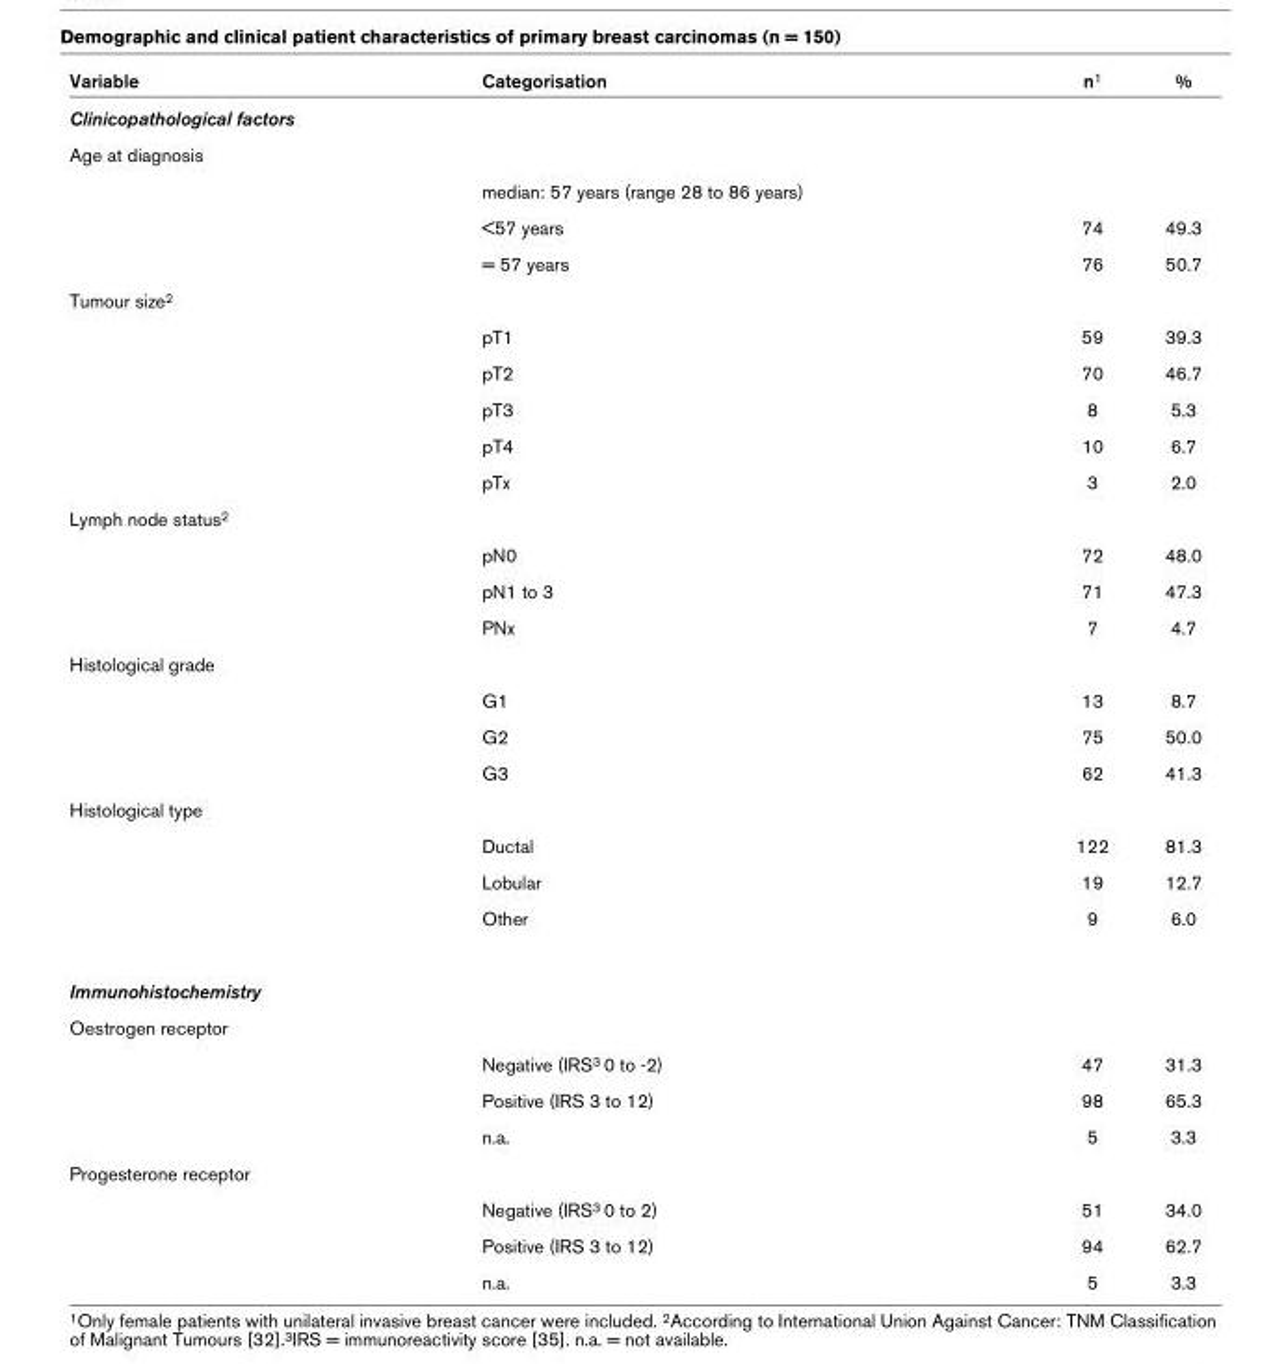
<table><thead><tr><td>Variable</td><td>Categorisation</td><td>n<sup>1</sup></td><td>%</td></tr></thead><tbody><tr><td colspan="4">Clinicopathological factors</td></tr><tr><td colspan="4">Age at diagnosis</td></tr><tr><td></td><td>median: 57 years (range 28 to 86 years)</td><td></td><td></td></tr><tr><td></td><td>&lt;57 years</td><td>74</td><td>49.3</td></tr><tr><td></td><td>= 57 years</td><td>76</td><td>50.7</td></tr><tr><td colspan="4">Tumour size<sup>2</sup></td></tr><tr><td></td><td>pT1</td><td>59</td><td>39.3</td></tr><tr><td></td><td>pT2</td><td>70</td><td>46.7</td></tr><tr><td></td><td>pT3</td><td>8</td><td>5.3</td></tr><tr><td></td><td>pT4</td><td>10</td><td>6.7</td></tr><tr><td></td><td>pTx</td><td>3</td><td>2.0</td></tr><tr><td colspan="4">Lymph node status<sup>2</sup></td></tr><tr><td></td><td>pN0</td><td>72</td><td>48.0</td></tr><tr><td></td><td>pN1 to 3</td><td>71</td><td>47.3</td></tr><tr><td></td><td>PNx</td><td>7</td><td>4.7</td></tr><tr><td colspan="4">Histological grade</td></tr><tr><td></td><td>G1</td><td>13</td><td>8.7</td></tr><tr><td></td><td>G2</td><td>75</td><td>50.0</td></tr><tr><td></td><td>G3</td><td>62</td><td>41.3</td></tr><tr><td colspan="4">Histological type</td></tr><tr><td></td><td>Ductal</td><td>122</td><td>81.3</td></tr><tr><td></td><td>Lobular</td><td>19</td><td>12.7</td></tr><tr><td></td><td>Other</td><td>9</td><td>6.0</td></tr><tr><td colspan="4">Immunohistochemistry</td></tr><tr><td colspan="4">Oestrogen receptor</td></tr><tr><td></td><td>Negative (IRS<sup>3</sup> 0 to -2)</td><td>47</td><td>31.3</td></tr><tr><td></td><td>Positive (IRS 3 to 12)</td><td>98</td><td>65.3</td></tr><tr><td></td><td>n.a.</td><td>5</td><td>3.3</td></tr><tr><td colspan="4">Progesterone receptor</td></tr><tr><td></td><td>Negative (IRS<sup>3</sup> 0 to 2)</td><td>51</td><td>34.0</td></tr><tr><td></td><td>Positive (IRS 3 to 12)</td><td>94</td><td>62.7</td></tr><tr><td></td><td>n.a.</td><td>5</td><td>3.3</td></tr></tbody></table>